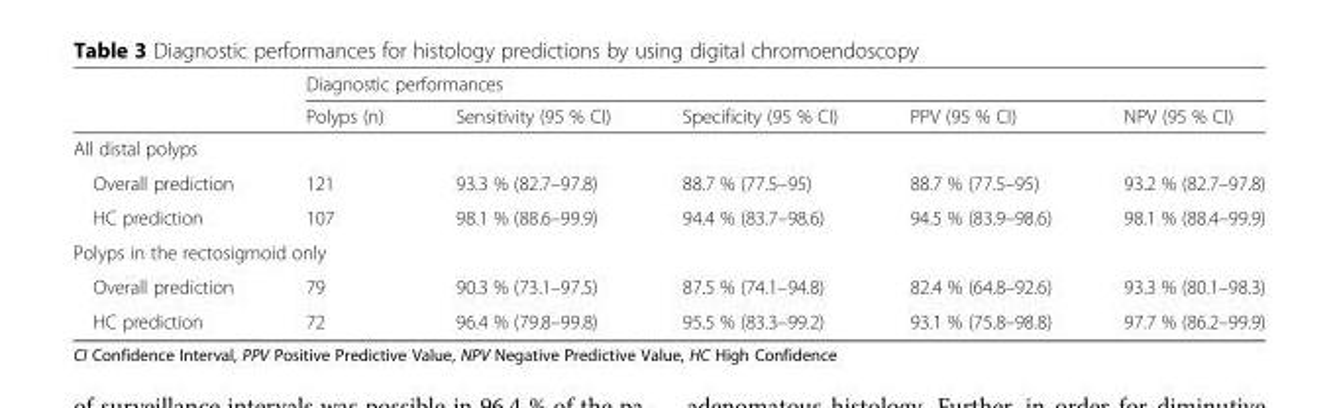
<table><thead><tr><td rowspan="2"></td><td colspan="5">Diagnostic performances</td></tr><tr><td>Polyps (n)</td><td>Sensitivity (95 % CI)</td><td>Specificity (95 % CI)</td><td>PPV (95 % CI)</td><td>NPV (95 % CI)</td></tr></thead><tbody><tr><td colspan="6">All distal polyps</td></tr><tr><td>Overall prediction</td><td>121</td><td>93.3 % (82.7–97.8)</td><td>88.7 % (77.5–95)</td><td>88.7 % (77.5–95)</td><td>93.2 % (82.7–97.8)</td></tr><tr><td>HC prediction</td><td>107</td><td>98.1 % (88.6–99.9)</td><td>94.4 % (83.7–98.6)</td><td>94.5 % (83.9–98.6)</td><td>98.1 % (88.4–99.9)</td></tr><tr><td colspan="6">Polyps in the rectosigmoid only</td></tr><tr><td>Overall prediction</td><td>79</td><td>90.3 % (73.1–97.5)</td><td>87.5 % (74.1–94.8)</td><td>82.4 % (64.8–92.6)</td><td>93.3 % (80.1–98.3)</td></tr><tr><td>HC prediction</td><td>72</td><td>96.4 % (79.8–99.8)</td><td>95.5 % (83.3–99.2)</td><td>93.1 % (75.8–98.8)</td><td>97.7 % (86.2–99.9)</td></tr></tbody></table>